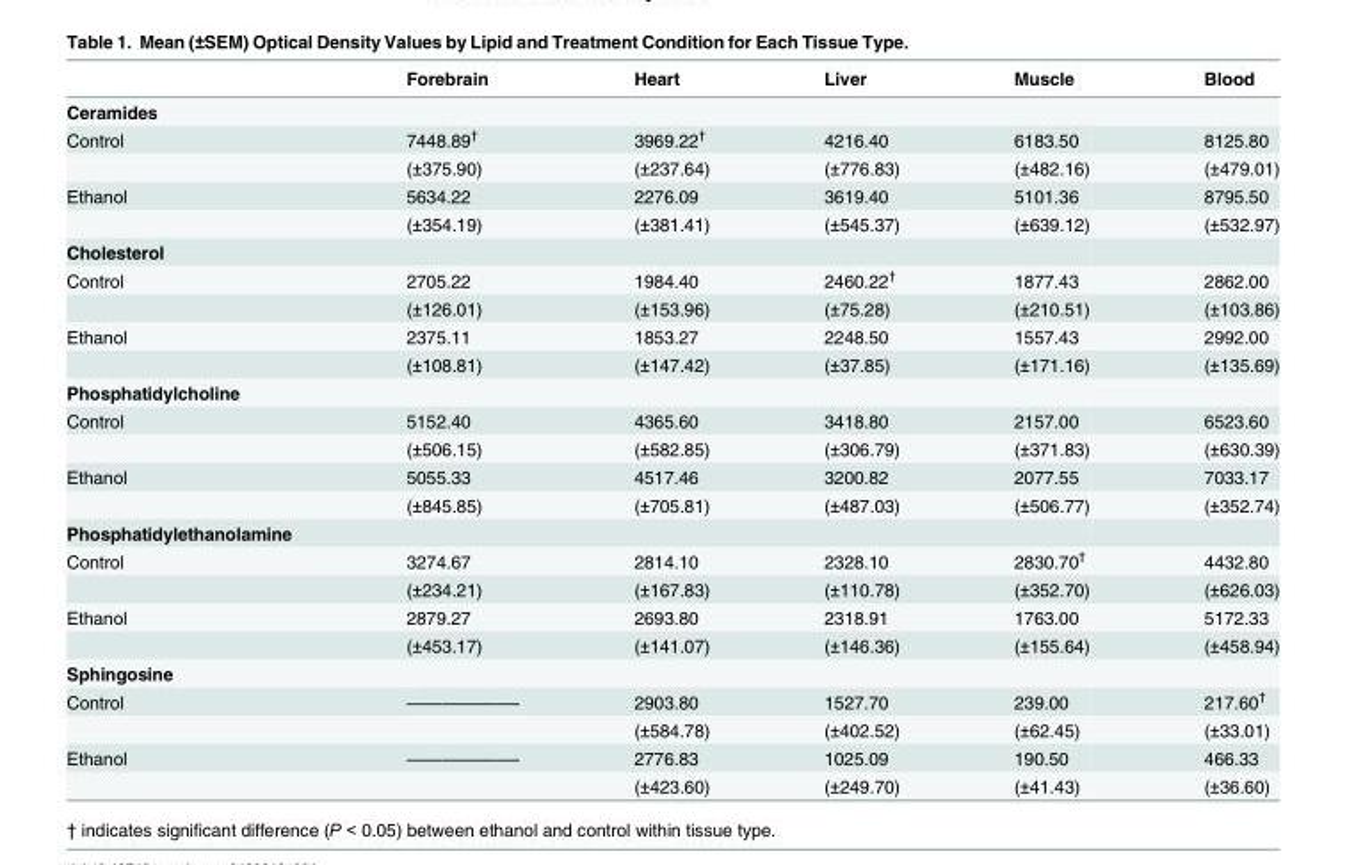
<table><thead><tr><td></td><td>Forebrain</td><td>Heart</td><td>Liver</td><td>Muscle</td><td>Blood</td></tr></thead><tbody><tr><td colspan="6">Ceramides</td></tr><tr><td rowspan="2">Control</td><td>7448.89<sup>†</sup></td><td>3969.22<sup>†</sup></td><td>4216.40</td><td>6183.50</td><td>8125.80</td></tr><tr><td>(±375.90)</td><td>(±237.64)</td><td>(±776.83)</td><td>(±482.16)</td><td>(±479.01)</td></tr><tr><td rowspan="2">Ethanol</td><td>5634.22</td><td>2276.09</td><td>3619.40</td><td>5101.36</td><td>8795.50</td></tr><tr><td>(±354.19)</td><td>(±381.41)</td><td>(±545.37)</td><td>(±639.12)</td><td>(±532.97)</td></tr><tr><td colspan="6">Cholesterol</td></tr><tr><td rowspan="2">Control</td><td>2705.22</td><td>1984.40</td><td>2460.22<sup>†</sup></td><td>1877.43</td><td>2862.00</td></tr><tr><td>(±126.01)</td><td>(±153.96)</td><td>(±75.28)</td><td>(±210.51)</td><td>(±103.86)</td></tr><tr><td rowspan="2">Ethanol</td><td>2375.11</td><td>1853.27</td><td>2248.50</td><td>1557.43</td><td>2992.00</td></tr><tr><td>(±108.81)</td><td>(±147.42)</td><td>(±37.85)</td><td>(±171.16)</td><td>(±135.69)</td></tr><tr><td colspan="6">Phosphatidylcholine</td></tr><tr><td rowspan="2">Control</td><td>5152.40</td><td>4365.60</td><td>3418.80</td><td>2157.00</td><td>6523.60</td></tr><tr><td>(±506.15)</td><td>(±582.85)</td><td>(±306.79)</td><td>(±371.83)</td><td>(±630.39)</td></tr><tr><td rowspan="2">Ethanol</td><td>5055.33</td><td>4517.46</td><td>3200.82</td><td>2077.55</td><td>7033.17</td></tr><tr><td>(±845.85)</td><td>(±705.81)</td><td>(±487.03)</td><td>(±506.77)</td><td>(±352.74)</td></tr><tr><td colspan="6">Phosphatidylethanolamine</td></tr><tr><td rowspan="2">Control</td><td>3274.67</td><td>2814.10</td><td>2328.10</td><td>2830.70<sup>†</sup></td><td>4432.80</td></tr><tr><td>(±234.21)</td><td>(±167.83)</td><td>(±110.78)</td><td>(±352.70)</td><td>(±626.03)</td></tr><tr><td rowspan="2">Ethanol</td><td>2879.27</td><td>2693.80</td><td>2318.91</td><td>1763.00</td><td>5172.33</td></tr><tr><td>(±453.17)</td><td>(±141.07)</td><td>(±146.36)</td><td>(±155.64)</td><td>(±458.94)</td></tr><tr><td colspan="6">Sphingosine</td></tr><tr><td rowspan="2">Control</td><td>——————-</td><td>2903.80</td><td>1527.70</td><td>239.00</td><td>217.60<sup>†</sup></td></tr><tr><td></td><td>(±584.78)</td><td>(±402.52)</td><td>(±62.45)</td><td>(±33.01)</td></tr><tr><td rowspan="2">Ethanol</td><td>——————-</td><td>2776.83</td><td>1025.09</td><td>190.50</td><td>466.33</td></tr><tr><td></td><td>(±423.60)</td><td>(±249.70)</td><td>(±41.43)</td><td>(±36.60)</td></tr></tbody></table>